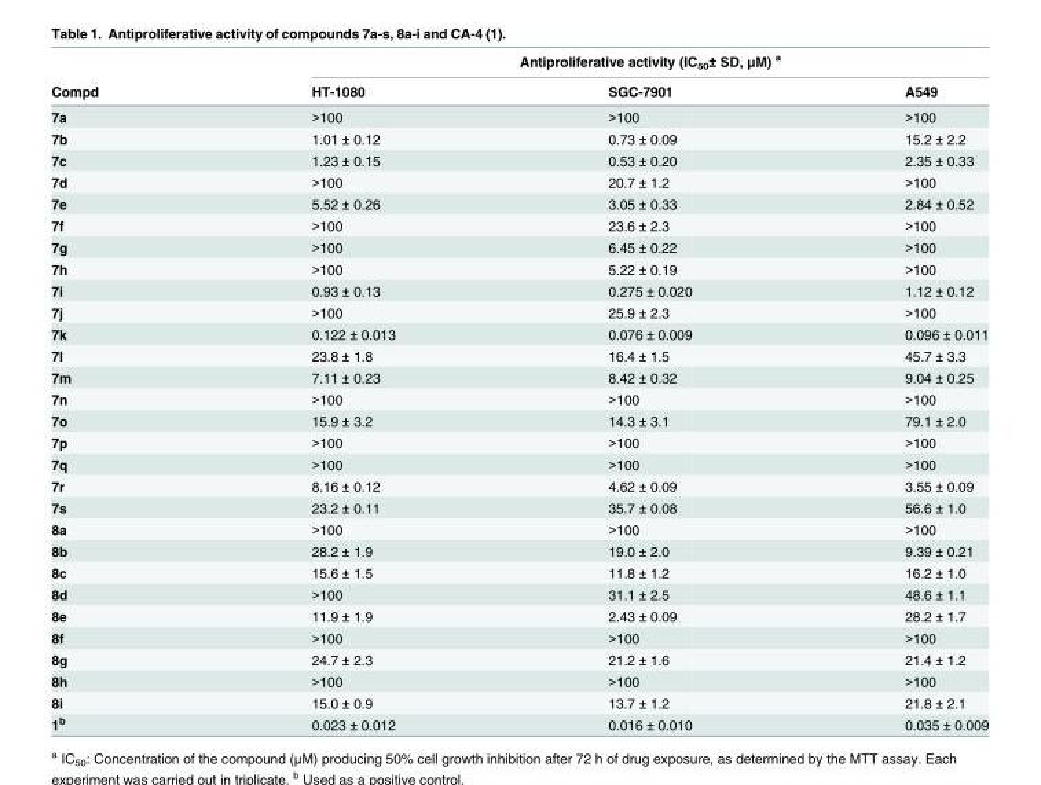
<table><thead><tr><td rowspan="2">Compd</td><td colspan="3">Antiproliferative activity (IC<sub>50</sub>± SD, μM) <sup>a</sup></td></tr><tr><td>HT-1080</td><td>SGC-7901</td><td>A549</td></tr></thead><tbody><tr><td>7a</td><td>&gt;100</td><td>&gt;100</td><td>&gt;100</td></tr><tr><td>7b</td><td>1.01 ± 0.12</td><td>0.73 ± 0.09</td><td>15.2 ± 2.2</td></tr><tr><td>7c</td><td>1.23 ± 0.15</td><td>0.53 ± 0.20</td><td>2.35 ± 0.33</td></tr><tr><td>7d</td><td>&gt;100</td><td>20.7 ± 1.2</td><td>&gt;100</td></tr><tr><td>7e</td><td>5.52 ± 0.26</td><td>3.05 ± 0.33</td><td>2.84 ± 0.52</td></tr><tr><td>7f</td><td>&gt;100</td><td>23.6 ± 2.3</td><td>&gt;100</td></tr><tr><td>7g</td><td>&gt;100</td><td>6.45 ± 0.22</td><td>&gt;100</td></tr><tr><td>7h</td><td>&gt;100</td><td>5.22 ± 0.19</td><td>&gt;100</td></tr><tr><td>7i</td><td>0.93 ± 0.13</td><td>0.275 ± 0.020</td><td>1.12 ± 0.12</td></tr><tr><td>7j</td><td>&gt;100</td><td>25.9 ± 2.3</td><td>&gt;100</td></tr><tr><td>7k</td><td>0.122 ± 0.013</td><td>0.076 ± 0.009</td><td>0.096 ± 0.011</td></tr><tr><td>7l</td><td>23.8 ± 1.8</td><td>16.4 ± 1.5</td><td>45.7 ± 3.3</td></tr><tr><td>7m</td><td>7.11 ± 0.23</td><td>8.42 ± 0.32</td><td>9.04 ± 0.25</td></tr><tr><td>7n</td><td>&gt;100</td><td>&gt;100</td><td>&gt;100</td></tr><tr><td>7o</td><td>15.9 ± 3.2</td><td>14.3 ± 3.1</td><td>79.1 ± 2.0</td></tr><tr><td>7p</td><td>&gt;100</td><td>&gt;100</td><td>&gt;100</td></tr><tr><td>7q</td><td>&gt;100</td><td>&gt;100</td><td>&gt;100</td></tr><tr><td>7r</td><td>8.16 ± 0.12</td><td>4.62 ± 0.09</td><td>3.55 ± 0.09</td></tr><tr><td>7s</td><td>23.2 ± 0.11</td><td>35.7 ± 0.08</td><td>56.6 ± 1.0</td></tr><tr><td>8a</td><td>&gt;100</td><td>&gt;100</td><td>&gt;100</td></tr><tr><td>8b</td><td>28.2 ± 1.9</td><td>19.0 ± 2.0</td><td>9.39 ± 0.21</td></tr><tr><td>8c</td><td>15.6 ± 1.5</td><td>11.8 ± 1.2</td><td>16.2 ± 1.0</td></tr><tr><td>8d</td><td>&gt;100</td><td>31.1 ± 2.5</td><td>48.6 ± 1.1</td></tr><tr><td>8e</td><td>11.9 ± 1.9</td><td>2.43 ± 0.09</td><td>28.2 ± 1.7</td></tr><tr><td>8f</td><td>&gt;100</td><td>&gt;100</td><td>&gt;100</td></tr><tr><td>8g</td><td>24.7 ± 2.3</td><td>21.2 ± 1.6</td><td>21.4 ± 1.2</td></tr><tr><td>8h</td><td>&gt;100</td><td>&gt;100</td><td>&gt;100</td></tr><tr><td>8i</td><td>15.0 ± 0.9</td><td>13.7 ± 1.2</td><td>21.8 ± 2.1</td></tr><tr><td>1<sup>b</sup></td><td>0.023 ± 0.012</td><td>0.016 ± 0.010</td><td>0.035 ± 0.009</td></tr></tbody></table>